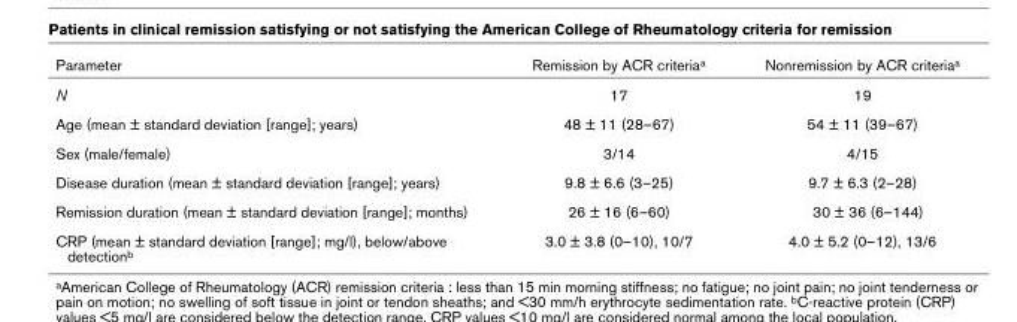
<table><thead><tr><td>Parameter</td><td>Remission by ACR criteriaa</td><td>Nonremission by ACR criteriaa</td></tr></thead><tbody><tr><td>N</td><td>17</td><td>19</td></tr><tr><td>Age (mean ± standard deviation [range]; years)</td><td>48 ± 11 (28–67)</td><td>54 ± 11 (39–67)</td></tr><tr><td>Sex (male/female)</td><td>3/14</td><td>4/15</td></tr><tr><td>Disease duration (mean ± standard deviation [range]; years)</td><td>9.8 ± 6.6 (3–25)</td><td>9.7 ± 6.3 (2–28)</td></tr><tr><td>Remission duration (mean ± standard deviation [range]; months)</td><td>26 ± 16 (6–60)</td><td>30 ± 36 (6–144)</td></tr><tr><td>CRP (mean ± standard deviation [range]; mg/l), below/above detectionb</td><td>3.0 ± 3.8 (0–10), 10/7</td><td>4.0 ± 5.2 (0–12), 13/6</td></tr></tbody></table>